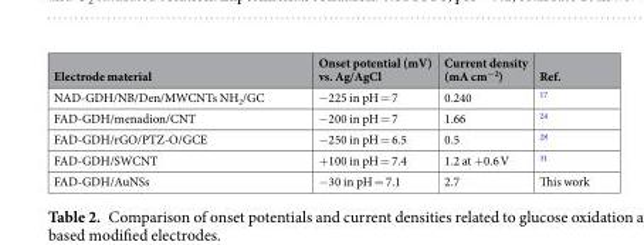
<table><thead><tr><td>Electrode material</td><td>Onset potential (mV) vs. Ag/AgCl</td><td>Current density (mA cm<sup>−2</sup>)</td><td>Ref.</td></tr></thead><tbody><tr><td>NAD-GDH/NB/Den/MWCNTs NH<sub>2</sub>/GC</td><td>−225 in pH = 7</td><td>0.240</td><td><sup>17</sup></td></tr><tr><td>FAD-GDH/menadion/CNT</td><td>−200 in pH = 7</td><td>1.66</td><td><sup>24</sup></td></tr><tr><td>FAD-GDH/rGO/PTZ-O/GCE</td><td>−250 in pH = 6.5</td><td>0.5</td><td><sup>28</sup></td></tr><tr><td>FAD-GDH/SWCNT</td><td>+100 in pH = 7.4</td><td>1.2 at +0.6 V</td><td><sup>31</sup></td></tr><tr><td>FAD-GDH/AuNSs</td><td>−30 in pH = 7.1</td><td>2.7</td><td>This work</td></tr></tbody></table>